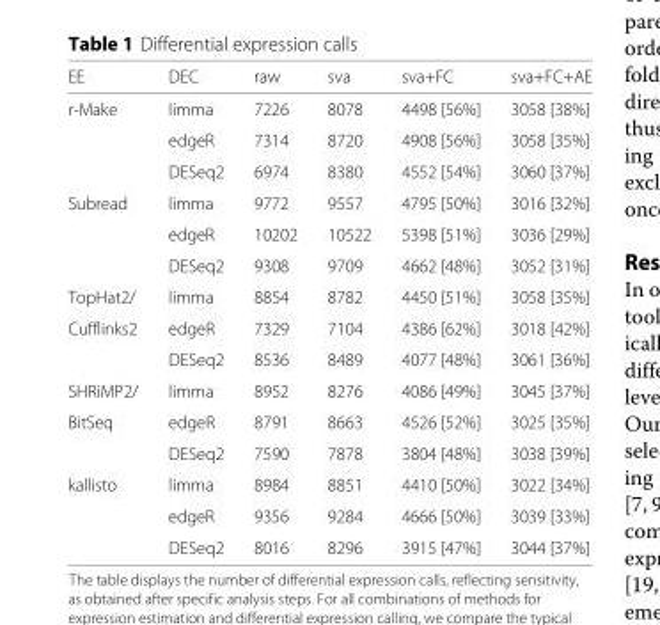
<table><thead><tr><td>EE</td><td>DEC</td><td>raw</td><td>sva</td><td>sva+FC</td><td>sva+FC+AE</td></tr></thead><tbody><tr><td rowspan="3">r-Make</td><td>limma</td><td>7226</td><td>8078</td><td>4498 [56%]</td><td>3058 [38%]</td></tr><tr><td>edgeR</td><td>7314</td><td>8720</td><td>4908 [56%]</td><td>3058 [35%]</td></tr><tr><td>DESeq2</td><td>6974</td><td>8380</td><td>4552 [54%]</td><td>3060 [37%]</td></tr><tr><td rowspan="3">Subread</td><td>limma</td><td>9772</td><td>9557</td><td>4795 [50%]</td><td>3016 [32%]</td></tr><tr><td>edgeR</td><td>10202</td><td>10522</td><td>5398 [51%]</td><td>3036 [29%]</td></tr><tr><td>DESeq2</td><td>9308</td><td>9709</td><td>4662 [48%]</td><td>3052 [31%]</td></tr><tr><td>TopHat2/</td><td>limma</td><td>8854</td><td>8782</td><td>4450 [51%]</td><td>3058 [35%]</td></tr><tr><td rowspan="2">Cufflinks2</td><td>edgeR</td><td>7329</td><td>7104</td><td>4386 [62%]</td><td>3018 [42%]</td></tr><tr><td>DESeq2</td><td>8536</td><td>8489</td><td>4077 [48%]</td><td>3061 [36%]</td></tr><tr><td>SHRiMP2/</td><td>limma</td><td>8952</td><td>8276</td><td>4086 [49%]</td><td>3045 [37%]</td></tr><tr><td rowspan="2">BitSeq</td><td>edgeR</td><td>8791</td><td>8663</td><td>4526 [52%]</td><td>3025 [35%]</td></tr><tr><td>DESeq2</td><td>7590</td><td>7878</td><td>3804 [48%]</td><td>3038 [39%]</td></tr><tr><td rowspan="3">kallisto</td><td>limma</td><td>8984</td><td>8851</td><td>4410 [50%]</td><td>3022 [34%]</td></tr><tr><td>edgeR</td><td>9356</td><td>9284</td><td>4666 [50%]</td><td>3039 [33%]</td></tr><tr><td>DESeq2</td><td>8016</td><td>8296</td><td>3915 [47%]</td><td>3044 [37%]</td></tr></tbody></table>